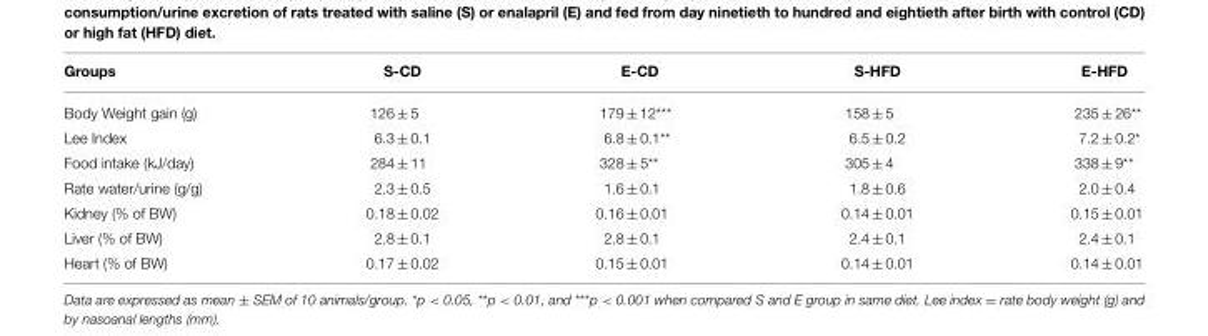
<table><thead><tr><td>Groups</td><td>S-CD</td><td>E-CD</td><td>S-HFD</td><td>E-HFD</td></tr></thead><tbody><tr><td>Body Weight gain (g)</td><td>126 ± 5</td><td>179 ± 12***</td><td>158 ± 5</td><td>235 ± 26**</td></tr><tr><td>Lee Index</td><td>6.3 ± 0.1</td><td>6.8 ± 0.1**</td><td>6.5 ± 0.2</td><td>7.2 ± 0.2*</td></tr><tr><td>Food intake (kJ/day)</td><td>284 ± 11</td><td>328 ± 5**</td><td>305 ± 4</td><td>338 ± 9**</td></tr><tr><td>Rate water/urine (g/g)</td><td>2.3 ± 0.5</td><td>1.6 ± 0.1</td><td>1.8 ± 0.6</td><td>2.0 ± 0.4</td></tr><tr><td>Kidney (% of BW)</td><td>0.18 ± 0.02</td><td>0.16 ± 0.01</td><td>0.14 ± 0.01</td><td>0.15 ± 0.01</td></tr><tr><td>Liver (% of BW)</td><td>2.8 ± 0.1</td><td>2.8 ± 0.1</td><td>2.4 ± 0.1</td><td>2.4 ± 0.1</td></tr><tr><td>Heart (% of BW)</td><td>0.17 ± 0.02</td><td>0.15 ± 0.01</td><td>0.14 ± 0.01</td><td>0.14 ± 0.01</td></tr></tbody></table>